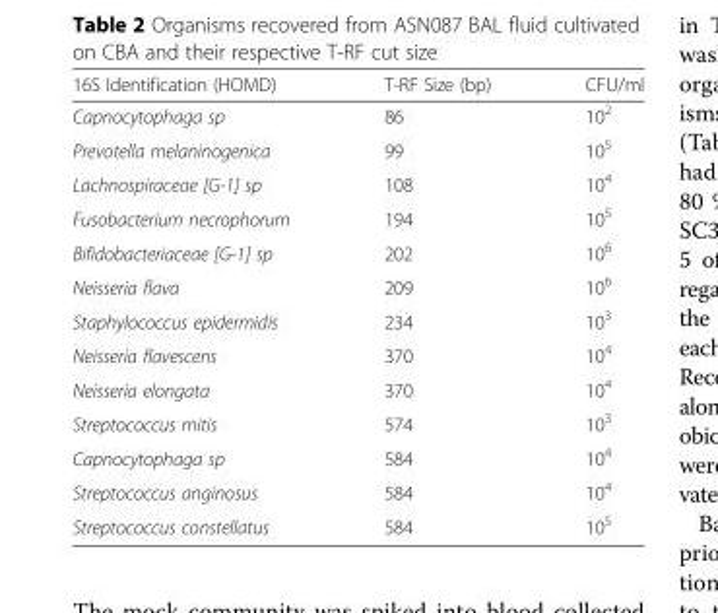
<table><thead><tr><td>16S Identification (HOMD)</td><td>T-RF Size (bp)</td><td>CFU/ml</td></tr></thead><tbody><tr><td>Capnocytophaga sp</td><td>86</td><td>10<sup>2</sup></td></tr><tr><td>Prevotella melaninogenica</td><td>99</td><td>10<sup>5</sup></td></tr><tr><td>Lachnospiraceae [G-1] sp</td><td>108</td><td>10<sup>4</sup></td></tr><tr><td>Fusobacterium necrophorum</td><td>194</td><td>10<sup>5</sup></td></tr><tr><td>Bifidobacteriaceae [G-1] sp</td><td>202</td><td>10<sup>6</sup></td></tr><tr><td>Neisseria flava</td><td>209</td><td>10<sup>6</sup></td></tr><tr><td>Staphylococcus epidermidis</td><td>234</td><td>10<sup>3</sup></td></tr><tr><td>Neisseria flavescens</td><td>370</td><td>10<sup>4</sup></td></tr><tr><td>Neisseria elongata</td><td>370</td><td>10<sup>4</sup></td></tr><tr><td>Streptococcus mitis</td><td>574</td><td>10<sup>3</sup></td></tr><tr><td>Capnocytophaga sp</td><td>584</td><td>10<sup>4</sup></td></tr><tr><td>Streptococcus anginosus</td><td>584</td><td>10<sup>4</sup></td></tr><tr><td>Streptococcus constellatus</td><td>584</td><td>10<sup>5</sup></td></tr></tbody></table>